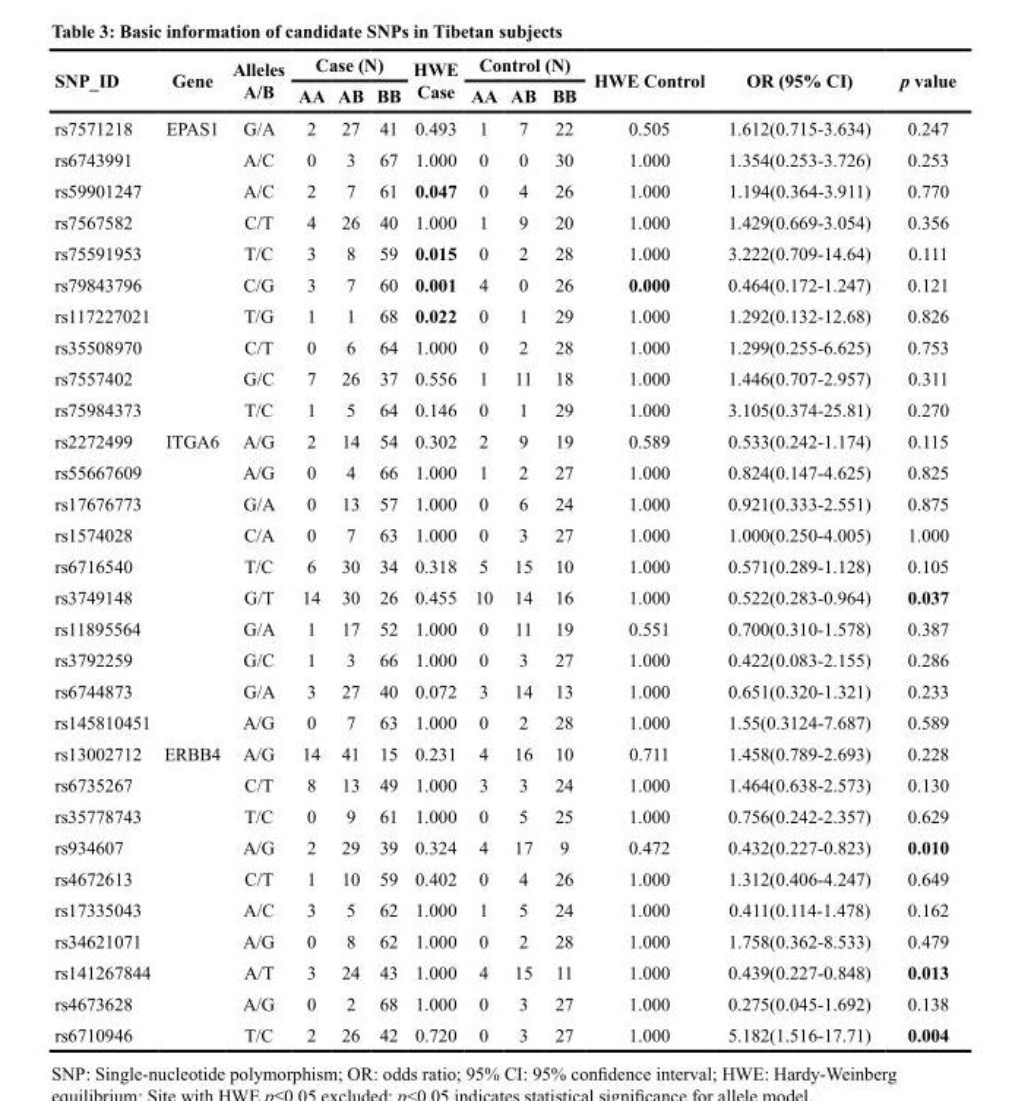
<table><thead><tr><td rowspan="2">SNP_ID</td><td rowspan="2">Gene</td><td rowspan="2">Alleles A/B</td><td colspan="3">Case (N)</td><td rowspan="2">HWE Case</td><td colspan="3">Control (N)</td><td rowspan="2">HWE Control</td><td rowspan="2">OR (95% CI)</td><td rowspan="2">p value</td></tr><tr><td>AA</td><td>AB</td><td>BB</td><td>AA</td><td>AB</td><td>BB</td></tr></thead><tbody><tr><td>rs7571218</td><td>EPAS1</td><td>G/A</td><td>2</td><td>27</td><td>41</td><td>0.493</td><td>1</td><td>7</td><td>22</td><td>0.505</td><td>1.612(0.715-3.634)</td><td>0.247</td></tr><tr><td>rs6743991</td><td></td><td>A/C</td><td>0</td><td>3</td><td>67</td><td>1.000</td><td>0</td><td>0</td><td>30</td><td>1.000</td><td>1.354(0.253-3.726)</td><td>0.253</td></tr><tr><td>rs59901247</td><td></td><td>A/C</td><td>2</td><td>7</td><td>61</td><td>0.047</td><td>0</td><td>4</td><td>26</td><td>1.000</td><td>1.194(0.364-3.911)</td><td>0.770</td></tr><tr><td>rs7567582</td><td></td><td>C/T</td><td>4</td><td>26</td><td>40</td><td>1.000</td><td>1</td><td>9</td><td>20</td><td>1.000</td><td>1.429(0.669-3.054)</td><td>0.356</td></tr><tr><td>rs75591953</td><td></td><td>T/C</td><td>3</td><td>8</td><td>59</td><td>0.015</td><td>0</td><td>2</td><td>28</td><td>1.000</td><td>3.222(0.709-14.64)</td><td>0.111</td></tr><tr><td>rs79843796</td><td></td><td>C/G</td><td>3</td><td>7</td><td>60</td><td>0.001</td><td>4</td><td>0</td><td>26</td><td>0.000</td><td>0.464(0.172-1.247)</td><td>0.121</td></tr><tr><td>rs117227021</td><td></td><td>T/G</td><td>1</td><td>1</td><td>68</td><td>0.022</td><td>0</td><td>1</td><td>29</td><td>1.000</td><td>1.292(0.132-12.68)</td><td>0.826</td></tr><tr><td>rs35508970</td><td></td><td>C/T</td><td>0</td><td>6</td><td>64</td><td>1.000</td><td>0</td><td>2</td><td>28</td><td>1.000</td><td>1.299(0.255-6.625)</td><td>0.753</td></tr><tr><td>rs7557402</td><td></td><td>G/C</td><td>7</td><td>26</td><td>37</td><td>0.556</td><td>1</td><td>11</td><td>18</td><td>1.000</td><td>1.446(0.707-2.957)</td><td>0.311</td></tr><tr><td>rs75984373</td><td></td><td>T/C</td><td>1</td><td>5</td><td>64</td><td>0.146</td><td>0</td><td>1</td><td>29</td><td>1.000</td><td>3.105(0.374-25.81)</td><td>0.270</td></tr><tr><td>rs2272499</td><td>ITGA6</td><td>A/G</td><td>2</td><td>14</td><td>54</td><td>0.302</td><td>2</td><td>9</td><td>19</td><td>0.589</td><td>0.533(0.242-1.174)</td><td>0.115</td></tr><tr><td>rs55667609</td><td></td><td>A/G</td><td>0</td><td>4</td><td>66</td><td>1.000</td><td>1</td><td>2</td><td>27</td><td>1.000</td><td>0.824(0.147-4.625)</td><td>0.825</td></tr><tr><td>rs17676773</td><td></td><td>G/A</td><td>0</td><td>13</td><td>57</td><td>1.000</td><td>0</td><td>6</td><td>24</td><td>1.000</td><td>0.921(0.333-2.551)</td><td>0.875</td></tr><tr><td>rs1574028</td><td></td><td>C/A</td><td>0</td><td>7</td><td>63</td><td>1.000</td><td>0</td><td>3</td><td>27</td><td>1.000</td><td>1.000(0.250-4.005)</td><td>1.000</td></tr><tr><td>rs6716540</td><td></td><td>T/C</td><td>6</td><td>30</td><td>34</td><td>0.318</td><td>5</td><td>15</td><td>10</td><td>1.000</td><td>0.571(0.289-1.128)</td><td>0.105</td></tr><tr><td>rs3749148</td><td></td><td>G/T</td><td>14</td><td>30</td><td>26</td><td>0.455</td><td>10</td><td>14</td><td>16</td><td>1.000</td><td>0.522(0.283-0.964)</td><td>0.037</td></tr><tr><td>rs11895564</td><td></td><td>G/A</td><td>1</td><td>17</td><td>52</td><td>1.000</td><td>0</td><td>11</td><td>19</td><td>0.551</td><td>0.700(0.310-1.578)</td><td>0.387</td></tr><tr><td>rs3792259</td><td></td><td>G/C</td><td>1</td><td>3</td><td>66</td><td>1.000</td><td>0</td><td>3</td><td>27</td><td>1.000</td><td>0.422(0.083-2.155)</td><td>0.286</td></tr><tr><td>rs6744873</td><td></td><td>G/A</td><td>3</td><td>27</td><td>40</td><td>0.072</td><td>3</td><td>14</td><td>13</td><td>1.000</td><td>0.651(0.320-1.321)</td><td>0.233</td></tr><tr><td>rs145810451</td><td></td><td>A/G</td><td>0</td><td>7</td><td>63</td><td>1.000</td><td>0</td><td>2</td><td>28</td><td>1.000</td><td>1.55(0.3124-7.687)</td><td>0.589</td></tr><tr><td>rs13002712</td><td>ERBB4</td><td>A/G</td><td>14</td><td>41</td><td>15</td><td>0.231</td><td>4</td><td>16</td><td>10</td><td>0.711</td><td>1.458(0.789-2.693)</td><td>0.228</td></tr><tr><td>rs6735267</td><td></td><td>C/T</td><td>8</td><td>13</td><td>49</td><td>1.000</td><td>3</td><td>3</td><td>24</td><td>1.000</td><td>1.464(0.638-2.573)</td><td>0.130</td></tr><tr><td>rs35778743</td><td></td><td>T/C</td><td>0</td><td>9</td><td>61</td><td>1.000</td><td>0</td><td>5</td><td>25</td><td>1.000</td><td>0.756(0.242-2.357)</td><td>0.629</td></tr><tr><td>rs934607</td><td></td><td>A/G</td><td>2</td><td>29</td><td>39</td><td>0.324</td><td>4</td><td>17</td><td>9</td><td>0.472</td><td>0.432(0.227-0.823)</td><td>0.010</td></tr><tr><td>rs4672613</td><td></td><td>C/T</td><td>1</td><td>10</td><td>59</td><td>0.402</td><td>0</td><td>4</td><td>26</td><td>1.000</td><td>1.312(0.406-4.247)</td><td>0.649</td></tr><tr><td>rs17335043</td><td></td><td>A/C</td><td>3</td><td>5</td><td>62</td><td>1.000</td><td>1</td><td>5</td><td>24</td><td>1.000</td><td>0.411(0.114-1.478)</td><td>0.162</td></tr><tr><td>rs34621071</td><td></td><td>A/G</td><td>0</td><td>8</td><td>62</td><td>1.000</td><td>0</td><td>2</td><td>28</td><td>1.000</td><td>1.758(0.362-8.533)</td><td>0.479</td></tr><tr><td>rs141267844</td><td></td><td>A/T</td><td>3</td><td>24</td><td>43</td><td>1.000</td><td>4</td><td>15</td><td>11</td><td>1.000</td><td>0.439(0.227-0.848)</td><td>0.013</td></tr><tr><td>rs4673628</td><td></td><td>A/G</td><td>0</td><td>2</td><td>68</td><td>1.000</td><td>0</td><td>3</td><td>27</td><td>1.000</td><td>0.275(0.045-1.692)</td><td>0.138</td></tr><tr><td>rs6710946</td><td></td><td>T/C</td><td>2</td><td>26</td><td>42</td><td>0.720</td><td>0</td><td>3</td><td>27</td><td>1.000</td><td>5.182(1.516-17.71)</td><td>0.004</td></tr></tbody></table>